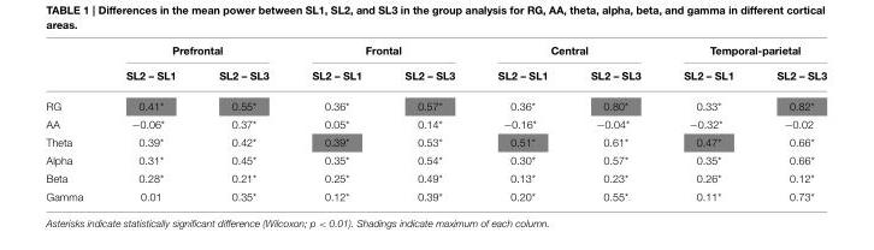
<table><thead><tr><td rowspan="2"></td><td colspan="2">Prefrontal</td><td colspan="2">Frontal</td><td colspan="2">Central</td><td colspan="2">Temporal-parietal</td></tr><tr><td>SL2 – SL1</td><td>SL2 – SL3</td><td>SL2 – SL1</td><td>SL2 – SL3</td><td>SL2 – SL1</td><td>SL2 – SL3</td><td>SL2 – SL1</td><td>SL2 – SL3</td></tr></thead><tbody><tr><td>RG</td><td>0.41*</td><td>0.55*</td><td>0.36*</td><td>0.57*</td><td>0.36*</td><td>0.80*</td><td>0.33*</td><td>0.82*</td></tr><tr><td>AA</td><td>−0.06*</td><td>0.37*</td><td>0.05*</td><td>0.14*</td><td>−0.16*</td><td>−0.04*</td><td>−0.32*</td><td>−0.02</td></tr><tr><td>Theta</td><td>0.39*</td><td>0.42*</td><td>0.39*</td><td>0.53*</td><td>0.51*</td><td>0.61*</td><td>0.47*</td><td>0.66*</td></tr><tr><td>Alpha</td><td>0.31*</td><td>0.45*</td><td>0.35*</td><td>0.54*</td><td>0.30*</td><td>0.57*</td><td>0.35*</td><td>0.66*</td></tr><tr><td>Beta</td><td>0.28*</td><td>0.21*</td><td>0.25*</td><td>0.49*</td><td>0.13*</td><td>0.23*</td><td>0.26*</td><td>0.12*</td></tr><tr><td>Gamma</td><td>0.01</td><td>0.35*</td><td>0.12*</td><td>0.39*</td><td>0.20*</td><td>0.55*</td><td>0.11*</td><td>0.73*</td></tr></tbody></table>